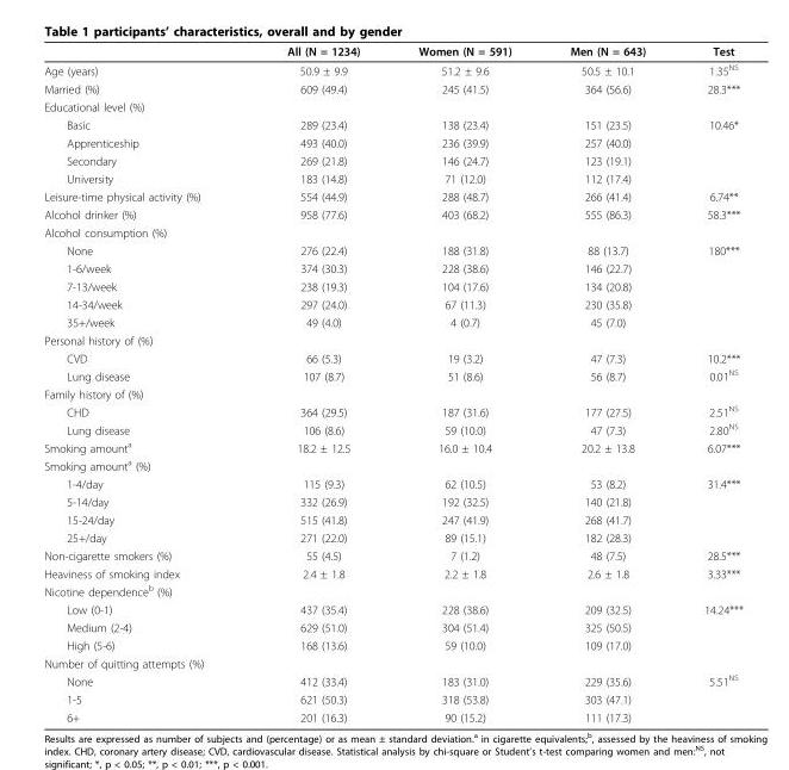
<table><thead><tr><td></td><td>All (N = 1234)</td><td>Women (N = 591)</td><td>Men (N = 643)</td><td>Test</td></tr></thead><tbody><tr><td>Age (years)</td><td>50.9 ± 9.9</td><td>51.2 ± 9.6</td><td>50.5 ± 10.1</td><td>1.35<sup>NS</sup></td></tr><tr><td>Married (%)</td><td>609 (49.4)</td><td>245 (41.5)</td><td>364 (56.6)</td><td>28.3***</td></tr><tr><td colspan="5">Educational level (%)</td></tr><tr><td>Basic</td><td>289 (23.4)</td><td>138 (23.4)</td><td>151 (23.5)</td><td>10.46*</td></tr><tr><td>Apprenticeship</td><td>493 (40.0)</td><td>236 (39.9)</td><td>257 (40.0)</td><td></td></tr><tr><td>Secondary</td><td>269 (21.8)</td><td>146 (24.7)</td><td>123 (19.1)</td><td></td></tr><tr><td>University</td><td>183 (14.8)</td><td>71 (12.0)</td><td>112 (17.4)</td><td></td></tr><tr><td>Leisure-time physical activity (%)</td><td>554 (44.9)</td><td>288 (48.7)</td><td>266 (41.4)</td><td>6.74**</td></tr><tr><td>Alcohol drinker (%)</td><td>958 (77.6)</td><td>403 (68.2)</td><td>555 (86.3)</td><td>58.3***</td></tr><tr><td colspan="5">Alcohol consumption (%)</td></tr><tr><td>None</td><td>276 (22.4)</td><td>188 (31.8)</td><td>88 (13.7)</td><td>180***</td></tr><tr><td>1-6/week</td><td>374 (30.3)</td><td>228 (38.6)</td><td>146 (22.7)</td><td></td></tr><tr><td>7-13/week</td><td>238 (19.3)</td><td>104 (17.6)</td><td>134 (20.8)</td><td></td></tr><tr><td>14-34/week</td><td>297 (24.0)</td><td>67 (11.3)</td><td>230 (35.8)</td><td></td></tr><tr><td>35+/week</td><td>49 (4.0)</td><td>4 (0.7)</td><td>45 (7.0)</td><td></td></tr><tr><td colspan="5">Personal history of (%)</td></tr><tr><td>CVD</td><td>66 (5.3)</td><td>19 (3.2)</td><td>47 (7.3)</td><td>10.2***</td></tr><tr><td>Lung disease</td><td>107 (8.7)</td><td>51 (8.6)</td><td>56 (8.7)</td><td>0.01<sup>NS</sup></td></tr><tr><td colspan="5">Family history of (%)</td></tr><tr><td>CHD</td><td>364 (29.5)</td><td>187 (31.6)</td><td>177 (27.5)</td><td>2.51<sup>NS</sup></td></tr><tr><td>Lung disease</td><td>106 (8.6)</td><td>59 (10.0)</td><td>47 (7.3)</td><td>2.80<sup>NS</sup></td></tr><tr><td>Smoking amount<sup>a</sup></td><td>18.2 ± 12.5</td><td>16.0 ± 10.4</td><td>20.2 ± 13.8</td><td>6.07***</td></tr><tr><td colspan="5">Smoking amount<sup>a</sup> (%)</td></tr><tr><td>1-4/day</td><td>115 (9.3)</td><td>62 (10.5)</td><td>53 (8.2)</td><td>31.4***</td></tr><tr><td>5-14/day</td><td>332 (26.9)</td><td>192 (32.5)</td><td>140 (21.8)</td><td></td></tr><tr><td>15-24/day</td><td>515 (41.8)</td><td>247 (41.9)</td><td>268 (41.7)</td><td></td></tr><tr><td>25+/day</td><td>271 (22.0)</td><td>89 (15.1)</td><td>182 (28.3)</td><td></td></tr><tr><td>Non-cigarette smokers (%)</td><td>55 (4.5)</td><td>7 (1.2)</td><td>48 (7.5)</td><td>28.5***</td></tr><tr><td>Heaviness of smoking index</td><td>2.4 ± 1.8</td><td>2.2 ± 1.8</td><td>2.6 ± 1.8</td><td>3.33***</td></tr><tr><td colspan="5">Nicotine dependence<sup>b</sup> (%)</td></tr><tr><td>Low (0-1)</td><td>437 (35.4)</td><td>228 (38.6)</td><td>209 (32.5)</td><td>14.24***</td></tr><tr><td>Medium (2-4)</td><td>629 (51.0)</td><td>304 (51.4)</td><td>325 (50.5)</td><td></td></tr><tr><td>High (5-6)</td><td>168 (13.6)</td><td>59 (10.0)</td><td>109 (17.0)</td><td></td></tr><tr><td colspan="5">Number of quitting attempts (%)</td></tr><tr><td>None</td><td>412 (33.4)</td><td>183 (31.0)</td><td>229 (35.6)</td><td>5.51<sup>NS</sup></td></tr><tr><td>1-5</td><td>621 (50.3)</td><td>318 (53.8)</td><td>303 (47.1)</td><td></td></tr><tr><td>6+</td><td>201 (16.3)</td><td>90 (15.2)</td><td>111 (17.3)</td><td></td></tr></tbody></table>